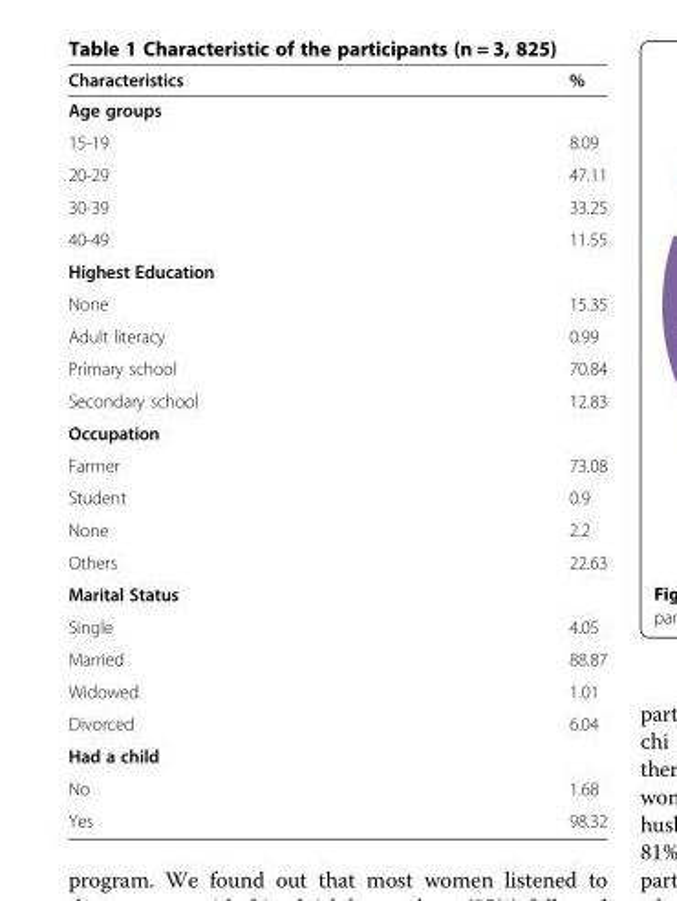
<table><thead><tr><td>Characteristics</td><td>%</td></tr></thead><tbody><tr><td colspan="2">Age groups</td></tr><tr><td>15-19</td><td>8.09</td></tr><tr><td>20-29</td><td>47.11</td></tr><tr><td>30-39</td><td>33.25</td></tr><tr><td>40-49</td><td>11.55</td></tr><tr><td colspan="2">Highest Education</td></tr><tr><td>None</td><td>15.35</td></tr><tr><td>Adult literacy</td><td>0.99</td></tr><tr><td>Primary school</td><td>70.84</td></tr><tr><td>Secondary school</td><td>12.83</td></tr><tr><td colspan="2">Occupation</td></tr><tr><td>Farmer</td><td>73.08</td></tr><tr><td>Student</td><td>0.9</td></tr><tr><td>None</td><td>2.2</td></tr><tr><td>Others</td><td>22.63</td></tr><tr><td colspan="2">Marital Status</td></tr><tr><td>Single</td><td>4.05</td></tr><tr><td>Married</td><td>88.87</td></tr><tr><td>Widowed</td><td>1.01</td></tr><tr><td>Divorced</td><td>6.04</td></tr><tr><td colspan="2">Had a child</td></tr><tr><td>No</td><td>1.68</td></tr><tr><td>Yes</td><td>98.32</td></tr></tbody></table>